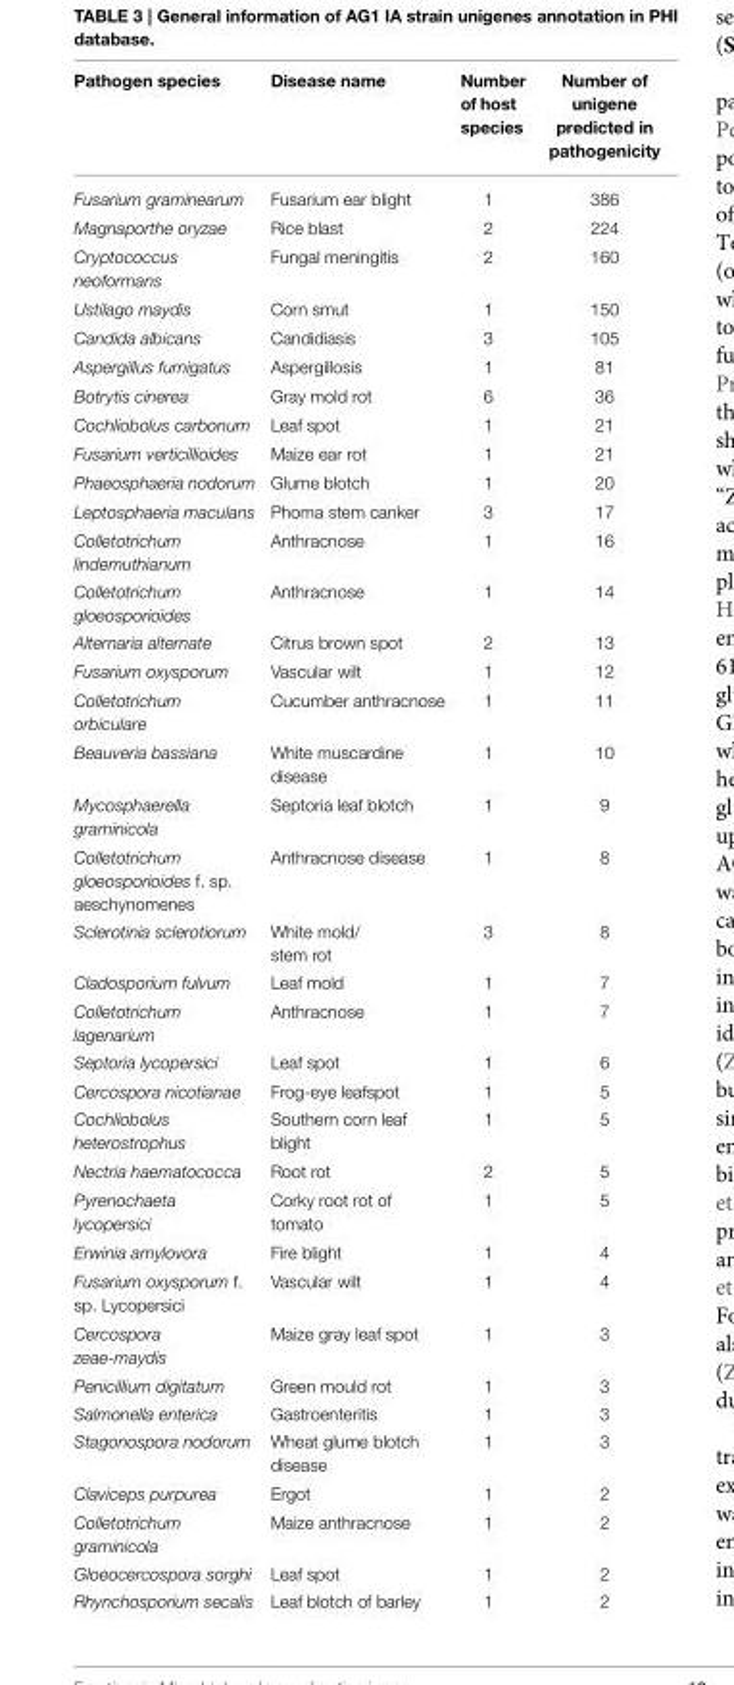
<table><thead><tr><td>Pathogen species</td><td>Disease name</td><td>Number of host species</td><td>Number of unigene predicted in pathogenicity</td></tr></thead><tbody><tr><td>Fusarium graminearum</td><td>Fusarium ear blight</td><td>1</td><td>386</td></tr><tr><td>Magnaporthe oryzae</td><td>Rice blast</td><td>2</td><td>224</td></tr><tr><td>Cryptococcus neoformans</td><td>Fungal meningitis</td><td>2</td><td>160</td></tr><tr><td>Ustilago maydis</td><td>Corn smut</td><td>1</td><td>150</td></tr><tr><td>Candida albicans</td><td>Candidiasis</td><td>3</td><td>105</td></tr><tr><td>Aspergillus fumigatus</td><td>Aspergillosis</td><td>1</td><td>81</td></tr><tr><td>Botrytis cinerea</td><td>Gray mold rot</td><td>6</td><td>36</td></tr><tr><td>Cochliobolus carbonum</td><td>Leaf spot</td><td>1</td><td>21</td></tr><tr><td>Fusarium verticillioides</td><td>Maize ear rot</td><td>1</td><td>21</td></tr><tr><td>Phaeosphaeria nodorum</td><td>Glume blotch</td><td>1</td><td>20</td></tr><tr><td>Leptosphaeria maculans</td><td>Phoma stem canker</td><td>3</td><td>17</td></tr><tr><td>Colletotrichum lindemuthianum</td><td>Anthracnose</td><td>1</td><td>16</td></tr><tr><td>Colletotrichum gloeosporioides</td><td>Anthracnose</td><td>1</td><td>14</td></tr><tr><td>Alternaria alternate</td><td>Citrus brown spot</td><td>2</td><td>13</td></tr><tr><td>Fusarium oxysporum</td><td>Vascular wilt</td><td>1</td><td>12</td></tr><tr><td>Colletotrichum orbiculare</td><td>Cucumber anthracnose</td><td>1</td><td>11</td></tr><tr><td>Beauveria bassiana</td><td>White muscardine disease</td><td>1</td><td>10</td></tr><tr><td>Mycosphaerella graminicola</td><td>Septoria leaf blotch</td><td>1</td><td>9</td></tr><tr><td>Colletotrichum gloeosporioides f. sp. aeschynomenes</td><td>Anthracnose disease</td><td>1</td><td>8</td></tr><tr><td>Sclerotinia sclerotiorum</td><td>White mold/ stem rot</td><td>3</td><td>8</td></tr><tr><td>Cladosporium fulvum</td><td>Leaf mold</td><td>1</td><td>7</td></tr><tr><td>Colletotrichum lagenarium</td><td>Anthracnose</td><td>1</td><td>7</td></tr><tr><td>Septoria lycopersici</td><td>Leaf spot</td><td>1</td><td>6</td></tr><tr><td>Cercospora nicotianae</td><td>Frog-eye leafspot</td><td>1</td><td>5</td></tr><tr><td>Cochliobolus heterostrophus</td><td>Southern corn leaf blight</td><td>1</td><td>5</td></tr><tr><td>Nectria haematococca</td><td>Root rot</td><td>2</td><td>5</td></tr><tr><td>Pyrenochaeta lycopersici</td><td>Corky root rot of tomato</td><td>1</td><td>5</td></tr><tr><td>Erwinia amylovora</td><td>Fire blight</td><td>1</td><td>4</td></tr><tr><td>Fusarium oxysporum f. sp. Lycopersici</td><td>Vascular wilt</td><td>1</td><td>4</td></tr><tr><td>Cercospora zeae-maydis</td><td>Maize gray leaf spot</td><td>1</td><td>3</td></tr><tr><td>Penicillium digitatum</td><td>Green mould rot</td><td>1</td><td>3</td></tr><tr><td>Salmonella enterica</td><td>Gastroenteritis</td><td>1</td><td>3</td></tr><tr><td>Stagonospora nodorum</td><td>Wheat glume blotch disease</td><td>1</td><td>3</td></tr><tr><td>Claviceps purpurea</td><td>Ergot</td><td>1</td><td>2</td></tr><tr><td>Colletotrichum graminicola</td><td>Maize anthracnose</td><td>1</td><td>2</td></tr><tr><td>Gloeocercospora sorghi</td><td>Leaf spot</td><td>1</td><td>2</td></tr><tr><td>Rhynchosporium secalis</td><td>Leaf blotch of barley</td><td>1</td><td>2</td></tr></tbody></table>